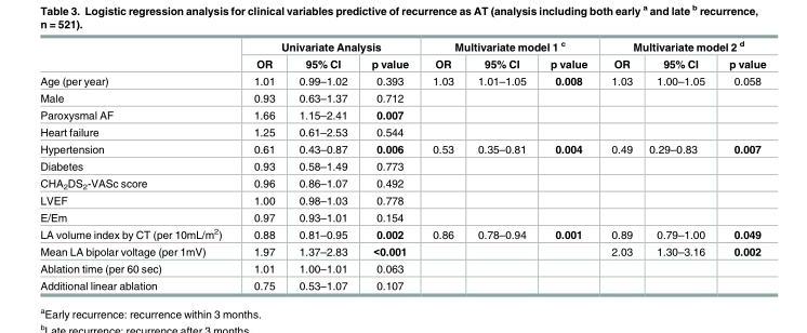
<table><thead><tr><td rowspan="2"></td><td colspan="3">Univariate Analysis</td><td colspan="3">Multivariate model 1 <sup>c</sup></td><td colspan="3">Multivariate model 2 <sup>d</sup></td></tr><tr><td>OR</td><td>95% CI</td><td>p value</td><td>OR</td><td>95% CI</td><td>p value</td><td>OR</td><td>95% CI</td><td>p value</td></tr></thead><tbody><tr><td>Age (per year)</td><td>1.01</td><td>0.99–1.02</td><td>0.393</td><td>1.03</td><td>1.01–1.05</td><td>0.008</td><td>1.03</td><td>1.00–1.05</td><td>0.058</td></tr><tr><td>Male</td><td>0.93</td><td>0.63–1.37</td><td>0.712</td><td></td><td></td><td></td><td></td><td></td><td></td></tr><tr><td>Paroxysmal AF</td><td>1.66</td><td>1.15–2.41</td><td>0.007</td><td></td><td></td><td></td><td></td><td></td><td></td></tr><tr><td>Heart failure</td><td>1.25</td><td>0.61–2.53</td><td>0.544</td><td></td><td></td><td></td><td></td><td></td><td></td></tr><tr><td>Hypertension</td><td>0.61</td><td>0.43–0.87</td><td>0.006</td><td>0.53</td><td>0.35–0.81</td><td>0.004</td><td>0.49</td><td>0.29–0.83</td><td>0.007</td></tr><tr><td>Diabetes</td><td>0.93</td><td>0.58–1.49</td><td>0.773</td><td></td><td></td><td></td><td></td><td></td><td></td></tr><tr><td>CHA<sub>2</sub>DS<sub>2</sub>-VASc score</td><td>0.96</td><td>0.86–1.07</td><td>0.492</td><td></td><td></td><td></td><td></td><td></td><td></td></tr><tr><td>LVEF</td><td>1.00</td><td>0.98–1.03</td><td>0.778</td><td></td><td></td><td></td><td></td><td></td><td></td></tr><tr><td>E/Em</td><td>0.97</td><td>0.93–1.01</td><td>0.154</td><td></td><td></td><td></td><td></td><td></td><td></td></tr><tr><td>LA volume index by CT (per 10mL/m<sup>2</sup>)</td><td>0.88</td><td>0.81–0.95</td><td>0.002</td><td>0.86</td><td>0.78–0.94</td><td>0.001</td><td>0.89</td><td>0.79–1.00</td><td>0.049</td></tr><tr><td>Mean LA bipolar voltage (per 1mV)</td><td>1.97</td><td>1.37–2.83</td><td>&lt;0.001</td><td></td><td></td><td></td><td>2.03</td><td>1.30–3.16</td><td>0.002</td></tr><tr><td>Ablation time (per 60 sec)</td><td>1.01</td><td>1.00–1.01</td><td>0.063</td><td></td><td></td><td></td><td></td><td></td><td></td></tr><tr><td>Additional linear ablation</td><td>0.75</td><td>0.53–1.07</td><td>0.107</td><td></td><td></td><td></td><td></td><td></td><td></td></tr></tbody></table>